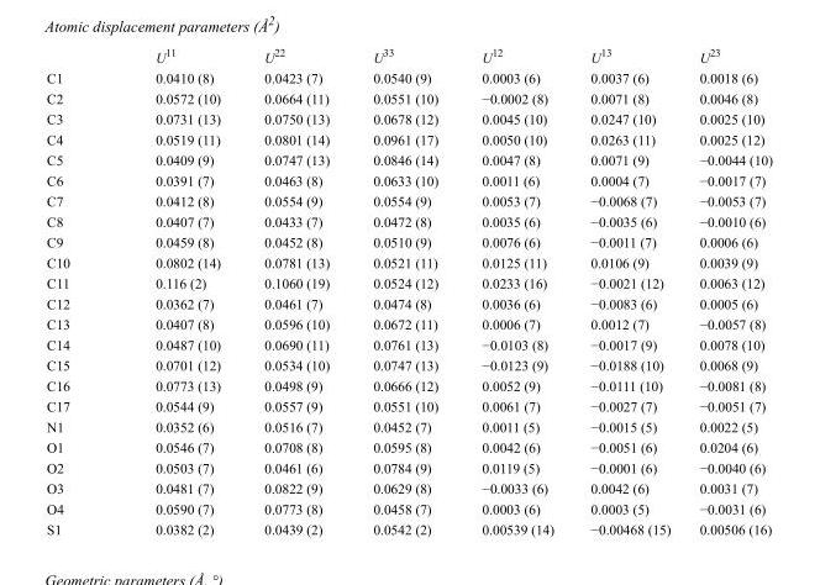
<table><thead><tr><td></td><td>U<sup>11</sup></td><td>U<sup>22</sup></td><td>U<sup>33</sup></td><td>U<sup>12</sup></td><td>U<sup>13</sup></td><td>U<sup>23</sup></td></tr></thead><tbody><tr><td>C1</td><td>0.0410 (8)</td><td>0.0423 (7)</td><td>0.0540 (9)</td><td>0.0003 (6)</td><td>0.0037 (6)</td><td>0.0018 (6)</td></tr><tr><td>C2</td><td>0.0572 (10)</td><td>0.0664 (11)</td><td>0.0551 (10)</td><td>−0.0002 (8)</td><td>0.0071 (8)</td><td>0.0046 (8)</td></tr><tr><td>C3</td><td>0.0731 (13)</td><td>0.0750 (13)</td><td>0.0678 (12)</td><td>0.0045 (10)</td><td>0.0247 (10)</td><td>0.0025 (10)</td></tr><tr><td>C4</td><td>0.0519 (11)</td><td>0.0801 (14)</td><td>0.0961 (17)</td><td>0.0050 (10)</td><td>0.0263 (11)</td><td>0.0025 (12)</td></tr><tr><td>C5</td><td>0.0409 (9)</td><td>0.0747 (13)</td><td>0.0846 (14)</td><td>0.0047 (8)</td><td>0.0071 (9)</td><td>−0.0044 (10)</td></tr><tr><td>C6</td><td>0.0391 (7)</td><td>0.0463 (8)</td><td>0.0633 (10)</td><td>0.0011 (6)</td><td>0.0004 (7)</td><td>−0.0017 (7)</td></tr><tr><td>C7</td><td>0.0412 (8)</td><td>0.0554 (9)</td><td>0.0554 (9)</td><td>0.0053 (7)</td><td>−0.0068 (7)</td><td>−0.0053 (7)</td></tr><tr><td>C8</td><td>0.0407 (7)</td><td>0.0433 (7)</td><td>0.0472 (8)</td><td>0.0035 (6)</td><td>−0.0035 (6)</td><td>−0.0010 (6)</td></tr><tr><td>C9</td><td>0.0459 (8)</td><td>0.0452 (8)</td><td>0.0510 (9)</td><td>0.0076 (6)</td><td>−0.0011 (7)</td><td>0.0006 (6)</td></tr><tr><td>C10</td><td>0.0802 (14)</td><td>0.0781 (13)</td><td>0.0521 (11)</td><td>0.0125 (11)</td><td>0.0106 (9)</td><td>0.0039 (9)</td></tr><tr><td>C11</td><td>0.116 (2)</td><td>0.1060 (19)</td><td>0.0524 (12)</td><td>0.0233 (16)</td><td>−0.0021 (12)</td><td>0.0063 (12)</td></tr><tr><td>C12</td><td>0.0362 (7)</td><td>0.0461 (7)</td><td>0.0474 (8)</td><td>0.0036 (6)</td><td>−0.0083 (6)</td><td>0.0005 (6)</td></tr><tr><td>C13</td><td>0.0407 (8)</td><td>0.0596 (10)</td><td>0.0672 (11)</td><td>0.0006 (7)</td><td>0.0012 (7)</td><td>−0.0057 (8)</td></tr><tr><td>C14</td><td>0.0487 (10)</td><td>0.0690 (11)</td><td>0.0761 (13)</td><td>−0.0103 (8)</td><td>−0.0017 (9)</td><td>0.0078 (10)</td></tr><tr><td>C15</td><td>0.0701 (12)</td><td>0.0534 (10)</td><td>0.0747 (13)</td><td>−0.0123 (9)</td><td>−0.0188 (10)</td><td>0.0068 (9)</td></tr><tr><td>C16</td><td>0.0773 (13)</td><td>0.0498 (9)</td><td>0.0666 (12)</td><td>0.0052 (9)</td><td>−0.0111 (10)</td><td>−0.0081 (8)</td></tr><tr><td>C17</td><td>0.0544 (9)</td><td>0.0557 (9)</td><td>0.0551 (10)</td><td>0.0061 (7)</td><td>−0.0027 (7)</td><td>−0.0051 (7)</td></tr><tr><td>N1</td><td>0.0352 (6)</td><td>0.0516 (7)</td><td>0.0452 (7)</td><td>0.0011 (5)</td><td>−0.0015 (5)</td><td>0.0022 (5)</td></tr><tr><td>O1</td><td>0.0546 (7)</td><td>0.0708 (8)</td><td>0.0595 (8)</td><td>0.0042 (6)</td><td>−0.0051 (6)</td><td>0.0204 (6)</td></tr><tr><td>O2</td><td>0.0503 (7)</td><td>0.0461 (6)</td><td>0.0784 (9)</td><td>0.0119 (5)</td><td>−0.0001 (6)</td><td>−0.0040 (6)</td></tr><tr><td>O3</td><td>0.0481 (7)</td><td>0.0822 (9)</td><td>0.0629 (8)</td><td>−0.0033 (6)</td><td>0.0042 (6)</td><td>0.0031 (7)</td></tr><tr><td>O4</td><td>0.0590 (7)</td><td>0.0773 (8)</td><td>0.0458 (7)</td><td>0.0003 (6)</td><td>0.0003 (5)</td><td>−0.0031 (6)</td></tr><tr><td>S1</td><td>0.0382 (2)</td><td>0.0439 (2)</td><td>0.0542 (2)</td><td>0.00539 (14)</td><td>−0.00468 (15)</td><td>0.00506 (16)</td></tr></tbody></table>